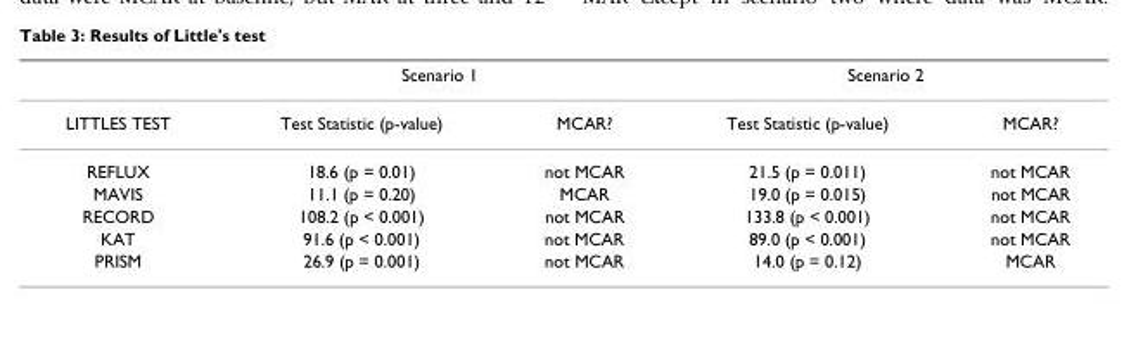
<table><thead><tr><td rowspan="2">LITTLES TEST</td><td colspan="2">Scenario 1</td><td colspan="2">Scenario 2</td></tr><tr><td>Test Statistic (p-value)</td><td>MCAR?</td><td>Test Statistic (p-value)</td><td>MCAR?</td></tr></thead><tbody><tr><td>REFLUX</td><td>18.6 (p = 0.01)</td><td>not MCAR</td><td>21.5 (p = 0.011)</td><td>not MCAR</td></tr><tr><td>MAVIS</td><td>11.1 (p = 0.20)</td><td>MCAR</td><td>19.0 (p = 0.015)</td><td>not MCAR</td></tr><tr><td>RECORD</td><td>108.2 (p &lt; 0.001)</td><td>not MCAR</td><td>133.8 (p &lt; 0.001)</td><td>not MCAR</td></tr><tr><td>KAT</td><td>91.6 (p &lt; 0.001)</td><td>not MCAR</td><td>89.0 (p &lt; 0.001)</td><td>not MCAR</td></tr><tr><td>PRISM</td><td>26.9 (p = 0.001)</td><td>not MCAR</td><td>14.0 (p = 0.12)</td><td>MCAR</td></tr></tbody></table>